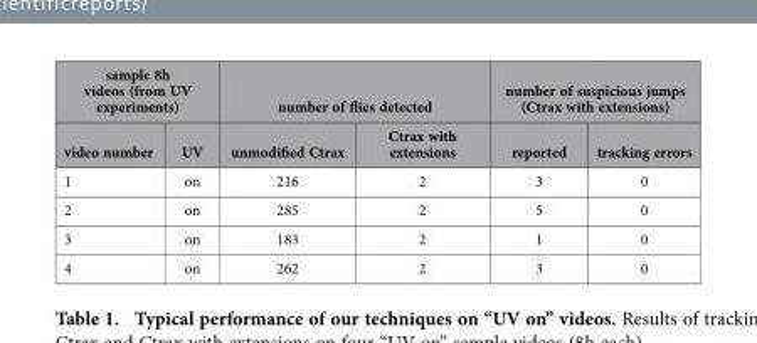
<table><thead><tr><td colspan="2">sample 8h videos (from UV experiments)</td><td colspan="2">number of flies detected</td><td colspan="2">number of suspicious jumps (Ctrax with extensions)</td></tr><tr><td>video number</td><td>UV</td><td>unmodified Ctrax</td><td>Ctrax with extensions</td><td>reported</td><td>tracking errors</td></tr></thead><tbody><tr><td>1</td><td>on</td><td>216</td><td>2</td><td>3</td><td>0</td></tr><tr><td>2</td><td>on</td><td>285</td><td>2</td><td>5</td><td>0</td></tr><tr><td>3</td><td>on</td><td>183</td><td>2</td><td>1</td><td>0</td></tr><tr><td>4</td><td>on</td><td>262</td><td>2</td><td>3</td><td>0</td></tr></tbody></table>